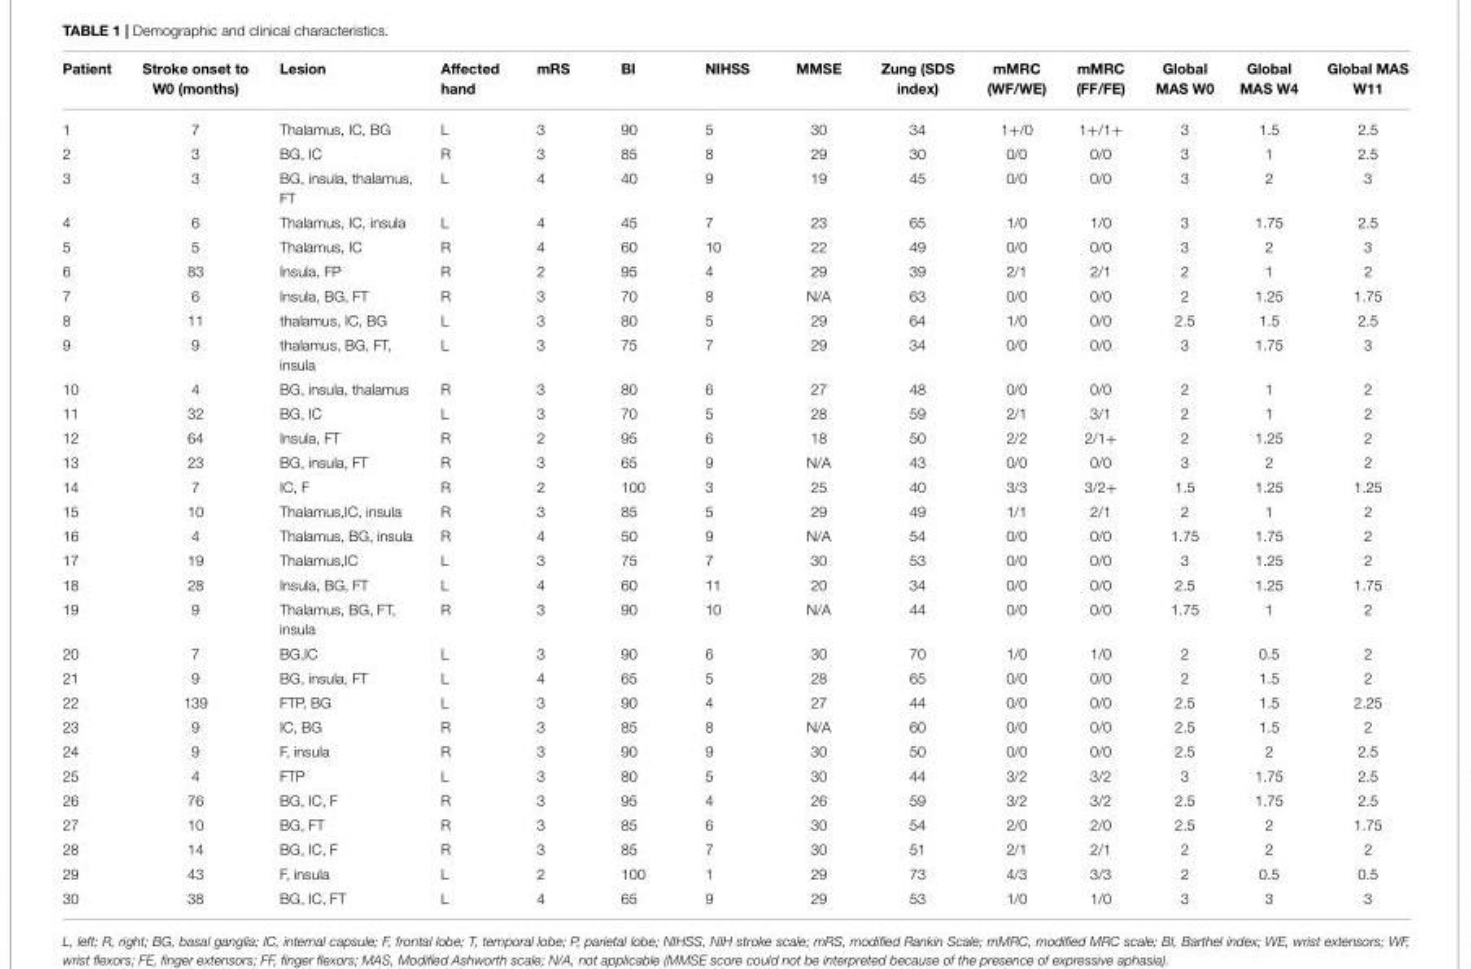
<table><thead><tr><td>Patient</td><td>Stroke onset to W0 (months)</td><td>Lesion</td><td>Affected hand</td><td>mRS</td><td>BI</td><td>NIHSS</td><td>MMSE</td><td>Zung (SDS index)</td><td>mMRC (WF/WE)</td><td>mMRC (FF/FE)</td><td>Global MAS W0</td><td>Global MAS W4</td><td>Global MAS W11</td></tr></thead><tbody><tr><td>1</td><td>7</td><td>Thalamus, IC, BG</td><td>L</td><td>3</td><td>90</td><td>5</td><td>30</td><td>34</td><td>1+/0</td><td>1+/1+</td><td>3</td><td>1.5</td><td>2.5</td></tr><tr><td>2</td><td>3</td><td>BG, IC</td><td>R</td><td>3</td><td>85</td><td>8</td><td>29</td><td>30</td><td>0/0</td><td>0/0</td><td>3</td><td>1</td><td>2.5</td></tr><tr><td>3</td><td>3</td><td>BG, insula, thalamus, FT</td><td>L</td><td>4</td><td>40</td><td>9</td><td>19</td><td>45</td><td>0/0</td><td>0/0</td><td>3</td><td>2</td><td>3</td></tr><tr><td>4</td><td>6</td><td>Thalamus, IC, insula</td><td>L</td><td>4</td><td>45</td><td>7</td><td>23</td><td>65</td><td>1/0</td><td>1/0</td><td>3</td><td>1.75</td><td>2.5</td></tr><tr><td>5</td><td>5</td><td>Thalamus, IC</td><td>R</td><td>4</td><td>60</td><td>10</td><td>22</td><td>49</td><td>0/0</td><td>0/0</td><td>3</td><td>2</td><td>3</td></tr><tr><td>6</td><td>83</td><td>Insula, FP</td><td>R</td><td>2</td><td>95</td><td>4</td><td>29</td><td>39</td><td>2/1</td><td>2/1</td><td>2</td><td>1</td><td>2</td></tr><tr><td>7</td><td>6</td><td>Insula, BG, FT</td><td>R</td><td>3</td><td>70</td><td>8</td><td>N/A</td><td>63</td><td>0/0</td><td>0/0</td><td>2</td><td>1.25</td><td>1.75</td></tr><tr><td>8</td><td>11</td><td>thalamus, IC, BG</td><td>L</td><td>3</td><td>80</td><td>5</td><td>29</td><td>64</td><td>1/0</td><td>0/0</td><td>2.5</td><td>1.5</td><td>2.5</td></tr><tr><td>9</td><td>9</td><td>thalamus, BG, FT, insula</td><td>L</td><td>3</td><td>75</td><td>7</td><td>29</td><td>34</td><td>0/0</td><td>0/0</td><td>3</td><td>1.75</td><td>3</td></tr><tr><td>10</td><td>4</td><td>BG, insula, thalamus</td><td>R</td><td>3</td><td>80</td><td>6</td><td>27</td><td>48</td><td>0/0</td><td>0/0</td><td>2</td><td>1</td><td>2</td></tr><tr><td>11</td><td>32</td><td>BG, IC</td><td>L</td><td>3</td><td>70</td><td>5</td><td>28</td><td>59</td><td>2/1</td><td>3/1</td><td>2</td><td>1</td><td>2</td></tr><tr><td>12</td><td>64</td><td>Insula, FT</td><td>R</td><td>2</td><td>95</td><td>6</td><td>18</td><td>50</td><td>2/2</td><td>2/1+</td><td>2</td><td>1.25</td><td>2</td></tr><tr><td>13</td><td>23</td><td>BG, insula, FT</td><td>R</td><td>3</td><td>65</td><td>9</td><td>N/A</td><td>43</td><td>0/0</td><td>0/0</td><td>3</td><td>2</td><td>2</td></tr><tr><td>14</td><td>7</td><td>IC, F</td><td>R</td><td>2</td><td>100</td><td>3</td><td>25</td><td>40</td><td>3/3</td><td>3/2+</td><td>1.5</td><td>1.25</td><td>1.25</td></tr><tr><td>15</td><td>10</td><td>Thalamus,IC, insula</td><td>R</td><td>3</td><td>85</td><td>5</td><td>29</td><td>49</td><td>1/1</td><td>2/1</td><td>2</td><td>1</td><td>2</td></tr><tr><td>16</td><td>4</td><td>Thalamus, BG, insula</td><td>R</td><td>4</td><td>50</td><td>9</td><td>N/A</td><td>54</td><td>0/0</td><td>0/0</td><td>1.75</td><td>1.75</td><td>2</td></tr><tr><td>17</td><td>19</td><td>Thalamus,IC</td><td>L</td><td>3</td><td>75</td><td>7</td><td>30</td><td>53</td><td>0/0</td><td>0/0</td><td>3</td><td>1.25</td><td>2</td></tr><tr><td>18</td><td>28</td><td>Insula, BG, FT</td><td>L</td><td>4</td><td>60</td><td>11</td><td>20</td><td>34</td><td>0/0</td><td>0/0</td><td>2.5</td><td>1.25</td><td>1.75</td></tr><tr><td>19</td><td>9</td><td>Thalamus, BG, FT, insula</td><td>R</td><td>3</td><td>90</td><td>10</td><td>N/A</td><td>44</td><td>0/0</td><td>0/0</td><td>1.75</td><td>1</td><td>2</td></tr><tr><td>20</td><td>7</td><td>BG,IC</td><td>L</td><td>3</td><td>90</td><td>6</td><td>30</td><td>70</td><td>1/0</td><td>1/0</td><td>2</td><td>0.5</td><td>2</td></tr><tr><td>21</td><td>9</td><td>BG, insula, FT</td><td>L</td><td>4</td><td>65</td><td>5</td><td>28</td><td>65</td><td>0/0</td><td>0/0</td><td>2</td><td>1.5</td><td>2</td></tr><tr><td>22</td><td>139</td><td>FTP, BG</td><td>L</td><td>3</td><td>90</td><td>4</td><td>27</td><td>44</td><td>0/0</td><td>0/0</td><td>2.5</td><td>1.5</td><td>2.25</td></tr><tr><td>23</td><td>9</td><td>IC, BG</td><td>R</td><td>3</td><td>85</td><td>8</td><td>N/A</td><td>60</td><td>0/0</td><td>0/0</td><td>2.5</td><td>1.5</td><td>2</td></tr><tr><td>24</td><td>9</td><td>F, insula</td><td>R</td><td>3</td><td>90</td><td>9</td><td>30</td><td>50</td><td>0/0</td><td>0/0</td><td>2.5</td><td>2</td><td>2.5</td></tr><tr><td>25</td><td>4</td><td>FTP</td><td>L</td><td>3</td><td>80</td><td>5</td><td>30</td><td>44</td><td>3/2</td><td>3/2</td><td>3</td><td>1.75</td><td>2.5</td></tr><tr><td>26</td><td>76</td><td>BG, IC, F</td><td>R</td><td>3</td><td>95</td><td>4</td><td>26</td><td>59</td><td>3/2</td><td>3/2</td><td>2.5</td><td>1.75</td><td>2.5</td></tr><tr><td>27</td><td>10</td><td>BG, FT</td><td>R</td><td>3</td><td>85</td><td>6</td><td>30</td><td>54</td><td>2/0</td><td>2/0</td><td>2.5</td><td>2</td><td>1.75</td></tr><tr><td>28</td><td>14</td><td>BG, IC, F</td><td>R</td><td>3</td><td>85</td><td>7</td><td>30</td><td>51</td><td>2/1</td><td>2/1</td><td>2</td><td>2</td><td>2</td></tr><tr><td>29</td><td>43</td><td>F, insula</td><td>L</td><td>2</td><td>100</td><td>1</td><td>29</td><td>73</td><td>4/3</td><td>3/3</td><td>2</td><td>0.5</td><td>0.5</td></tr><tr><td>30</td><td>38</td><td>BG, IC, FT</td><td>L</td><td>4</td><td>65</td><td>9</td><td>29</td><td>53</td><td>1/0</td><td>1/0</td><td>3</td><td>3</td><td>3</td></tr></tbody></table>